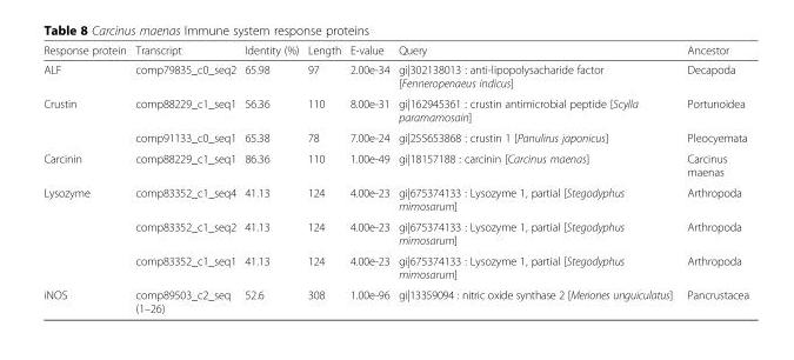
<table><thead><tr><td>Response protein</td><td>Transcript</td><td>Identity (%)</td><td>Length</td><td>E-value</td><td>Query</td><td>Ancestor</td></tr></thead><tbody><tr><td>ALF</td><td>comp79835_c0_seq2</td><td>65.98</td><td>97</td><td>2.00e-34</td><td>gi|302138013 : anti-lipopolysacharide factor [Fenneropenaeus indicus]</td><td>Decapoda</td></tr><tr><td rowspan="2">Crustin</td><td>comp88229_c1_seq1</td><td>56.36</td><td>110</td><td>8.00e-31</td><td>gi|162945361 : crustin antimicrobial peptide [Scylla paramamosain]</td><td>Portunoidea</td></tr><tr><td>comp91133_c0_seq1</td><td>65.38</td><td>78</td><td>7.00e-24</td><td>gi|255653868 : crustin 1 [Panulirus japonicus]</td><td>Pleocyemata</td></tr><tr><td>Carcinin</td><td>comp88229_c1_seq1</td><td>86.36</td><td>110</td><td>1.00e-49</td><td>gi|18157188 : carcinin [Carcinus maenas]</td><td>Carcinus maenas</td></tr><tr><td rowspan="3">Lysozyme</td><td>comp83352_c1_seq4</td><td>41.13</td><td>124</td><td>4.00e-23</td><td>gi|675374133 : Lysozyme 1, partial [Stegodyphus mimosarum]</td><td>Arthropoda</td></tr><tr><td>comp83352_c1_seq2</td><td>41.13</td><td>124</td><td>4.00e-23</td><td>gi|675374133 : Lysozyme 1, partial [Stegodyphus mimosarum]</td><td>Arthropoda</td></tr><tr><td>comp83352_c1_seq1</td><td>41.13</td><td>124</td><td>4.00e-23</td><td>gi|675374133 : Lysozyme 1, partial [Stegodyphus mimosarum]</td><td>Arthropoda</td></tr><tr><td>iNOS</td><td>comp89503_c2_seq (1–26)</td><td>52.6</td><td>308</td><td>1.00e-96</td><td>gi|13359094 : nitric oxide synthase 2 [Meriones unguiculatus]</td><td>Pancrustacea</td></tr></tbody></table>